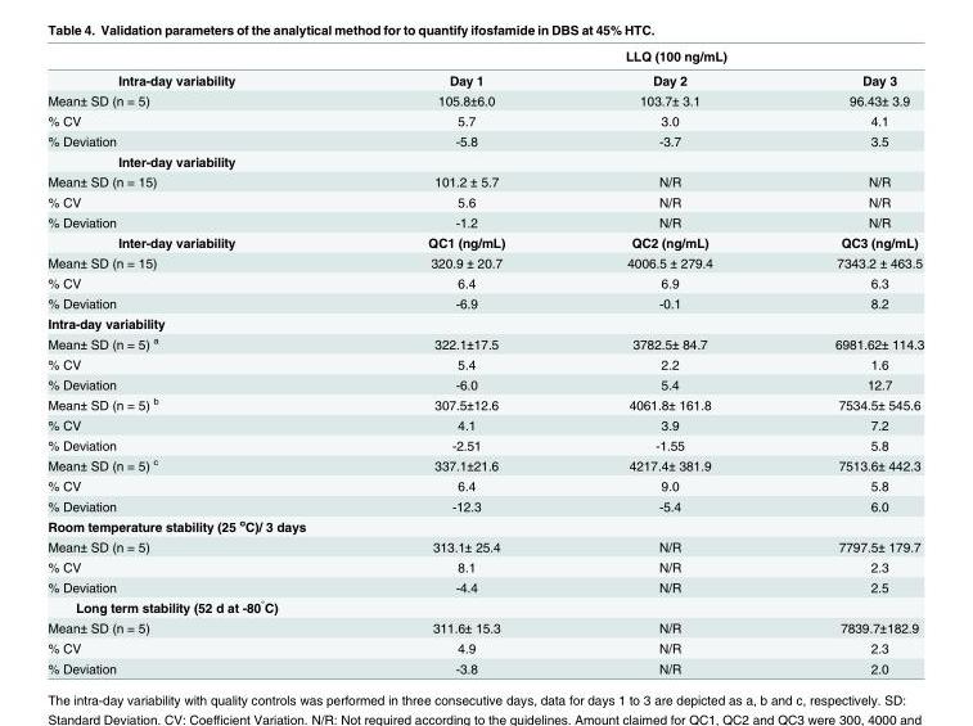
<table><thead><tr><td rowspan="2">Intra-day variability</td><td colspan="3">LLQ (100 ng/mL)</td></tr><tr><td>Day 1</td><td>Day 2</td><td>Day 3</td></tr></thead><tbody><tr><td>Mean± SD (n = 5)</td><td>105.8±6.0</td><td>103.7± 3.1</td><td>96.43± 3.9</td></tr><tr><td>% CV</td><td>5.7</td><td>3.0</td><td>4.1</td></tr><tr><td>% Deviation</td><td>-5.8</td><td>-3.7</td><td>3.5</td></tr><tr><td colspan="4">Inter-day variability</td></tr><tr><td>Mean± SD (n = 15)</td><td>101.2 ± 5.7</td><td>N/R</td><td>N/R</td></tr><tr><td>% CV</td><td>5.6</td><td>N/R</td><td>N/R</td></tr><tr><td>% Deviation</td><td>-1.2</td><td>N/R</td><td>N/R</td></tr><tr><td>Inter-day variability</td><td>QC1 (ng/mL)</td><td>QC2 (ng/mL)</td><td>QC3 (ng/mL)</td></tr><tr><td>Mean± SD (n = 15)</td><td>320.9 ± 20.7</td><td>4006.5 ± 279.4</td><td>7343.2 ± 463.5</td></tr><tr><td>% CV</td><td>6.4</td><td>6.9</td><td>6.3</td></tr><tr><td>% Deviation</td><td>-6.9</td><td>-0.1</td><td>8.2</td></tr><tr><td colspan="4">Intra-day variability</td></tr><tr><td>Mean± SD (n = 5) <sup>a</sup></td><td>322.1±17.5</td><td>3782.5± 84.7</td><td>6981.62± 114.3</td></tr><tr><td>% CV</td><td>5.4</td><td>2.2</td><td>1.6</td></tr><tr><td>% Deviation</td><td>-6.0</td><td>5.4</td><td>12.7</td></tr><tr><td>Mean± SD (n = 5) <sup>b</sup></td><td>307.5±12.6</td><td>4061.8± 161.8</td><td>7534.5± 545.6</td></tr><tr><td>% CV</td><td>4.1</td><td>3.9</td><td>7.2</td></tr><tr><td>% Deviation</td><td>-2.51</td><td>-1.55</td><td>5.8</td></tr><tr><td>Mean± SD (n = 5) <sup>c</sup></td><td>337.1±21.6</td><td>4217.4± 381.9</td><td>7513.6± 442.3</td></tr><tr><td>% CV</td><td>6.4</td><td>9.0</td><td>5.8</td></tr><tr><td>% Deviation</td><td>-12.3</td><td>-5.4</td><td>6.0</td></tr><tr><td colspan="4">Room temperature stability (25 <sup>o</sup>C)/ 3 days</td></tr><tr><td>Mean± SD (n = 5)</td><td>313.1± 25.4</td><td>N/R</td><td>7797.5± 179.7</td></tr><tr><td>% CV</td><td>8.1</td><td>N/R</td><td>2.3</td></tr><tr><td>% Deviation</td><td>-4.4</td><td>N/R</td><td>2.5</td></tr><tr><td colspan="4">Long term stability (52 d at -80<sup>°</sup>C)</td></tr><tr><td>Mean± SD (n = 5)</td><td>311.6± 15.3</td><td>N/R</td><td>7839.7±182.9</td></tr><tr><td>% CV</td><td>4.9</td><td>N/R</td><td>2.3</td></tr><tr><td>% Deviation</td><td>-3.8</td><td>N/R</td><td>2.0</td></tr></tbody></table>